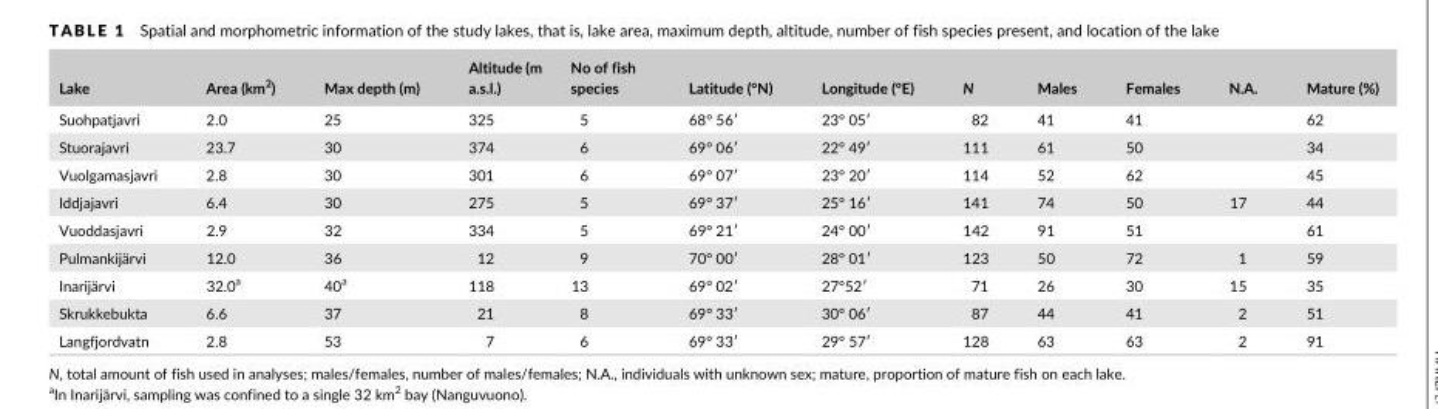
<table><thead><tr><td>Lake</td><td>Area (km<sup>2</sup>)</td><td>Max depth (m)</td><td>Altitude (m a.s.l.)</td><td>No of fish species</td><td>Latitude (°N)</td><td>Longitude (°E)</td><td>N</td><td>Males</td><td>Females</td><td>N.A.</td><td>Mature (%)</td></tr></thead><tbody><tr><td>Suohpatjavri</td><td>2.0</td><td>25</td><td>325</td><td>5</td><td>68° 56′</td><td>23° 05′</td><td>82</td><td>41</td><td>41</td><td></td><td>62</td></tr><tr><td>Stuorajavri</td><td>23.7</td><td>30</td><td>374</td><td>6</td><td>69° 06′</td><td>22° 49′</td><td>111</td><td>61</td><td>50</td><td></td><td>34</td></tr><tr><td>Vuolgamasjavri</td><td>2.8</td><td>30</td><td>301</td><td>6</td><td>69° 07′</td><td>23° 20′</td><td>114</td><td>52</td><td>62</td><td></td><td>45</td></tr><tr><td>Iddjajavri</td><td>6.4</td><td>30</td><td>275</td><td>5</td><td>69° 37′</td><td>25° 16′</td><td>141</td><td>74</td><td>50</td><td>17</td><td>44</td></tr><tr><td>Vuoddasjavri</td><td>2.9</td><td>32</td><td>334</td><td>5</td><td>69° 21′</td><td>24° 00′</td><td>142</td><td>91</td><td>51</td><td></td><td>61</td></tr><tr><td>Pulmankijärvi</td><td>12.0</td><td>36</td><td>12</td><td>9</td><td>70° 00′</td><td>28° 01′</td><td>123</td><td>50</td><td>72</td><td>1</td><td>59</td></tr><tr><td>Inarijärvi</td><td>32.0<sup>a</sup></td><td>40<sup>a</sup></td><td>118</td><td>13</td><td>69° 02′</td><td>27°52′</td><td>71</td><td>26</td><td>30</td><td>15</td><td>35</td></tr><tr><td>Skrukkebukta</td><td>6.6</td><td>37</td><td>21</td><td>8</td><td>69° 33′</td><td>30° 06′</td><td>87</td><td>44</td><td>41</td><td>2</td><td>51</td></tr><tr><td>Langfjordvatn</td><td>2.8</td><td>53</td><td>7</td><td>6</td><td>69° 33′</td><td>29° 57′</td><td>128</td><td>63</td><td>63</td><td>2</td><td>91</td></tr></tbody></table>